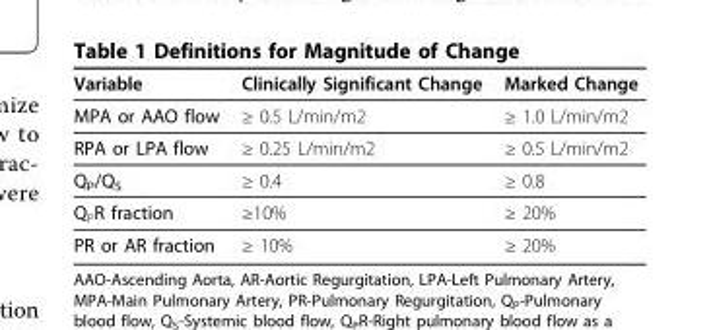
<table><thead><tr><td>Variable</td><td>Clinically Significant Change</td><td>Marked Change</td></tr></thead><tbody><tr><td>MPA or AAO flow</td><td>≥ 0.5 L/min/m2</td><td>≥ 1.0 L/min/m2</td></tr><tr><td>RPA or LPA flow</td><td>≥ 0.25 L/min/m2</td><td>≥ 0.5 L/min/m2</td></tr><tr><td>Q<sub>P</sub>/Q<sub>S</sub></td><td>≥ 0.4</td><td>≥ 0.8</td></tr><tr><td>QPR fraction</td><td>≥10%</td><td>≥ 20%</td></tr><tr><td>PR or AR fraction</td><td>≥ 10%</td><td>≥ 20%</td></tr></tbody></table>